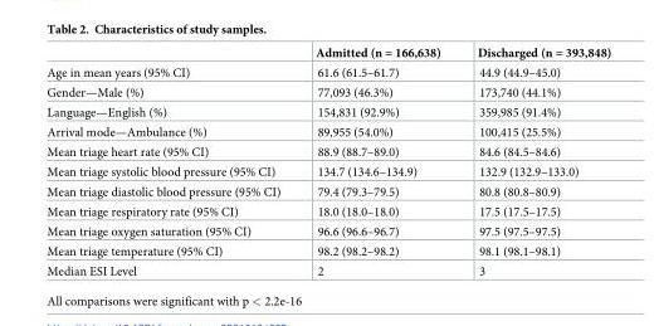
<table><thead><tr><td></td><td>Admitted (n = 166,638)</td><td>Discharged (n = 393,848)</td></tr></thead><tbody><tr><td>Age in mean years (95% CI)</td><td>61.6 (61.5–61.7)</td><td>44.9 (44.9–45.0)</td></tr><tr><td>Gender—Male (%)</td><td>77,093 (46.3%)</td><td>173,740 (44.1%)</td></tr><tr><td>Language—English (%)</td><td>154,831 (92.9%)</td><td>359,985 (91.4%)</td></tr><tr><td>Arrival mode—Ambulance (%)</td><td>89,955 (54.0%)</td><td>100,415 (25.5%)</td></tr><tr><td>Mean triage heart rate (95% CI)</td><td>88.9 (88.7–89.0)</td><td>84.6 (84.5–84.6)</td></tr><tr><td>Mean triage systolic blood pressure (95% CI)</td><td>134.7 (134.6–134.9)</td><td>132.9 (132.9–133.0)</td></tr><tr><td>Mean triage diastolic blood pressure (95% CI)</td><td>79.4 (79.3–79.5)</td><td>80.8 (80.8–80.9)</td></tr><tr><td>Mean triage respiratory rate (95% CI)</td><td>18.0 (18.0–18.0)</td><td>17.5 (17.5–17.5)</td></tr><tr><td>Mean triage oxygen saturation (95% CI)</td><td>96.6 (96.6–96.7)</td><td>97.5 (97.5–97.5)</td></tr><tr><td>Mean triage temperature (95% CI)</td><td>98.2 (98.2–98.2)</td><td>98.1 (98.1–98.1)</td></tr><tr><td>Median ESI Level</td><td>2</td><td>3</td></tr></tbody></table>